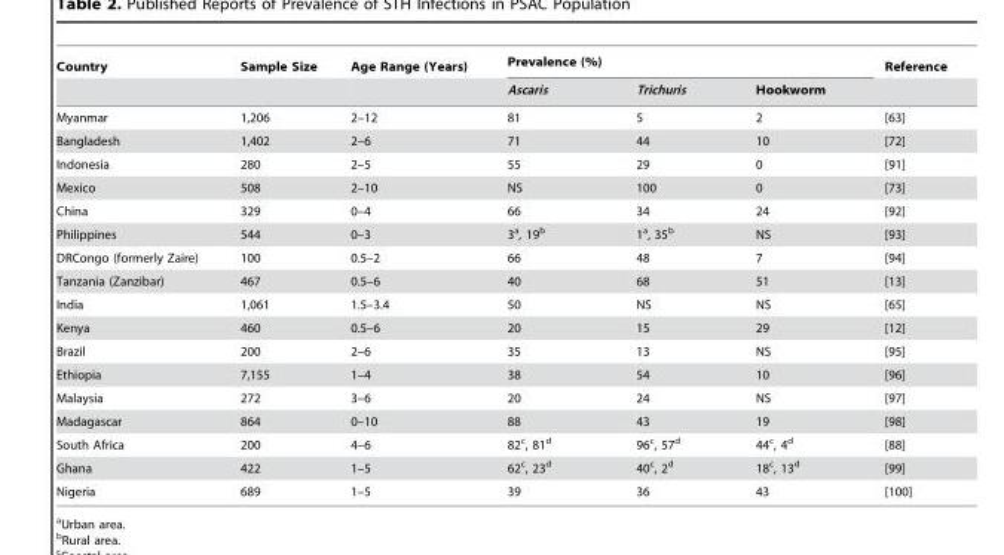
<table><thead><tr><td rowspan="2">Country</td><td rowspan="2">Sample Size</td><td rowspan="2">Age Range (Years)</td><td colspan="3">Prevalence (%)</td><td rowspan="2">Reference</td></tr><tr><td>Ascaris</td><td>Trichuris</td><td>Hookworm</td></tr></thead><tbody><tr><td>Myanmar</td><td>1,206</td><td>2–12</td><td>81</td><td>5</td><td>2</td><td>[63]</td></tr><tr><td>Bangladesh</td><td>1,402</td><td>2–6</td><td>71</td><td>44</td><td>10</td><td>[72]</td></tr><tr><td>Indonesia</td><td>280</td><td>2–5</td><td>55</td><td>29</td><td>0</td><td>[91]</td></tr><tr><td>Mexico</td><td>508</td><td>2–10</td><td>NS</td><td>100</td><td>0</td><td>[73]</td></tr><tr><td>China</td><td>329</td><td>0–4</td><td>66</td><td>34</td><td>24</td><td>[92]</td></tr><tr><td>Philippines</td><td>544</td><td>0–3</td><td>3<sup>a</sup>, 19<sup>b</sup></td><td>1<sup>a</sup>, 35<sup>b</sup></td><td>NS</td><td>[93]</td></tr><tr><td>DRCongo (formerly Zaire)</td><td>100</td><td>0.5–2</td><td>66</td><td>48</td><td>7</td><td>[94]</td></tr><tr><td>Tanzania (Zanzibar)</td><td>467</td><td>0.5–6</td><td>40</td><td>68</td><td>51</td><td>[13]</td></tr><tr><td>India</td><td>1,061</td><td>1.5–3.4</td><td>50</td><td>NS</td><td>NS</td><td>[65]</td></tr><tr><td>Kenya</td><td>460</td><td>0.5–6</td><td>20</td><td>15</td><td>29</td><td>[12]</td></tr><tr><td>Brazil</td><td>200</td><td>2–6</td><td>35</td><td>13</td><td>NS</td><td>[95]</td></tr><tr><td>Ethiopia</td><td>7,155</td><td>1–4</td><td>38</td><td>54</td><td>10</td><td>[96]</td></tr><tr><td>Malaysia</td><td>272</td><td>3–6</td><td>20</td><td>24</td><td>NS</td><td>[97]</td></tr><tr><td>Madagascar</td><td>864</td><td>0–10</td><td>88</td><td>43</td><td>19</td><td>[98]</td></tr><tr><td>South Africa</td><td>200</td><td>4–6</td><td>82<sup>c</sup>, 81<sup>d</sup></td><td>96<sup>c</sup>, 57<sup>d</sup></td><td>44<sup>c</sup>, 4<sup>d</sup></td><td>[88]</td></tr><tr><td>Ghana</td><td>422</td><td>1–5</td><td>62<sup>c</sup>, 23<sup>d</sup></td><td>40<sup>c</sup>, 2<sup>d</sup></td><td>18<sup>c</sup>, 13<sup>d</sup></td><td>[99]</td></tr><tr><td>Nigeria</td><td>689</td><td>1–5</td><td>39</td><td>36</td><td>43</td><td>[100]</td></tr></tbody></table>